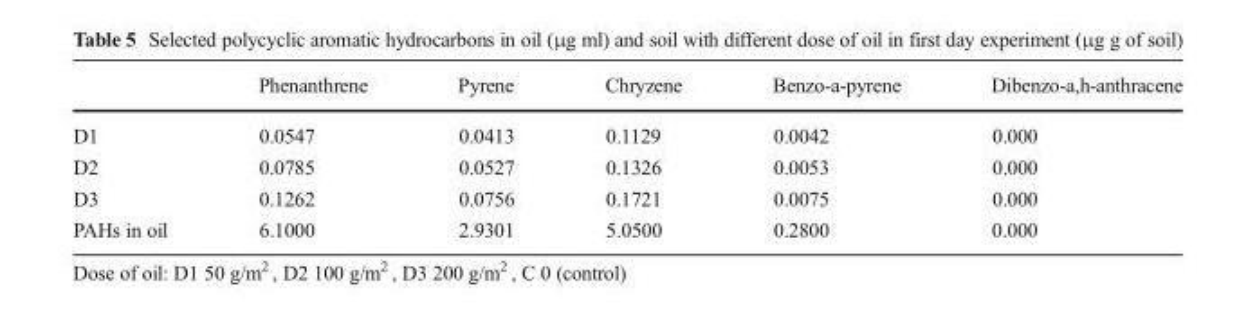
<table><thead><tr><td></td><td>Phenanthrene</td><td>Pyrene</td><td>Chryzene</td><td>Benzo-a-pyrene</td><td>Dibenzo-a,h-anthracene</td></tr></thead><tbody><tr><td>D1</td><td>0.0547</td><td>0.0413</td><td>0.1129</td><td>0.0042</td><td>0.000</td></tr><tr><td>D2</td><td>0.0785</td><td>0.0527</td><td>0.1326</td><td>0.0053</td><td>0.000</td></tr><tr><td>D3</td><td>0.1262</td><td>0.0756</td><td>0.1721</td><td>0.0075</td><td>0.000</td></tr><tr><td>PAHs in oil</td><td>6.1000</td><td>2.9301</td><td>5.0500</td><td>0.2800</td><td>0.000</td></tr></tbody></table>